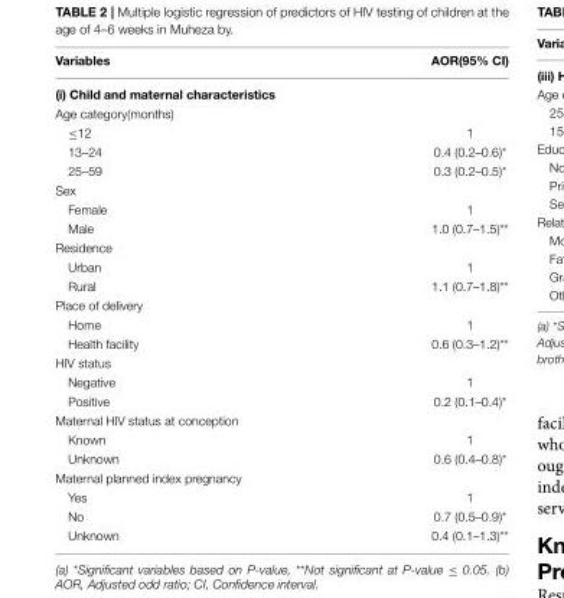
<table><thead><tr><td>Variables</td><td>AOR(95% CI)</td></tr></thead><tbody><tr><td colspan="2">(i) Child and maternal characteristics</td></tr><tr><td colspan="2">Age category(months)</td></tr><tr><td>≤12</td><td>1</td></tr><tr><td>13–24</td><td>0.4 (0.2–0.6)*</td></tr><tr><td>25–59</td><td>0.3 (0.2–0.5)*</td></tr><tr><td colspan="2">Sex</td></tr><tr><td>Female</td><td>1</td></tr><tr><td>Male</td><td>1.0 (0.7–1.5)**</td></tr><tr><td colspan="2">Residence</td></tr><tr><td>Urban</td><td>1</td></tr><tr><td>Rural</td><td>1.1 (0.7–1.8)**</td></tr><tr><td colspan="2">Place of delivery</td></tr><tr><td>Home</td><td>1</td></tr><tr><td>Health facility</td><td>0.6 (0.3–1.2)**</td></tr><tr><td colspan="2">HIV status</td></tr><tr><td>Negative</td><td>1</td></tr><tr><td>Positive</td><td>0.2 (0.1–0.4)*</td></tr><tr><td colspan="2">Maternal HIV status at conception</td></tr><tr><td>Known</td><td>1</td></tr><tr><td>Unknown</td><td>0.6 (0.4–0.8)*</td></tr><tr><td colspan="2">Maternal planned index pregnancy</td></tr><tr><td>Yes</td><td>1</td></tr><tr><td>No</td><td>0.7 (0.5–0.9)*</td></tr><tr><td>Unknown</td><td>0.4 (0.1–1.3)**</td></tr></tbody></table>